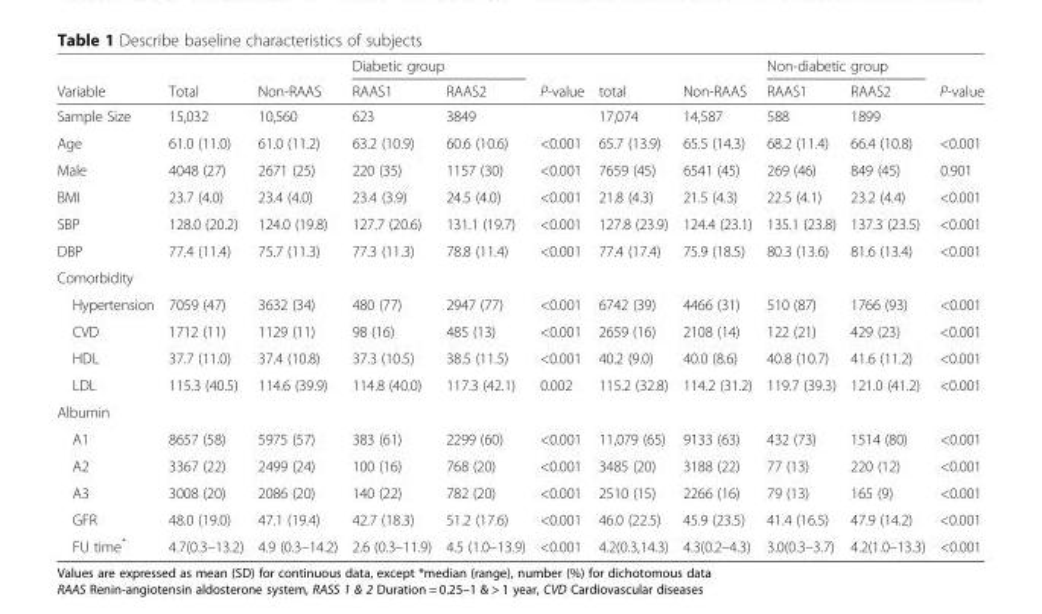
<table><thead><tr><td rowspan="2">Variable</td><td rowspan="2">Total</td><td rowspan="2">Non-RAAS</td><td colspan="2">Diabetic group</td><td rowspan="2">P-value</td><td rowspan="2">total</td><td rowspan="2">Non-RAAS</td><td colspan="2">Non-diabetic group</td><td rowspan="2">P-value</td></tr><tr><td>RAAS1</td><td>RAAS2</td><td>RAAS1</td><td>RAAS2</td></tr></thead><tbody><tr><td>Sample Size</td><td>15,032</td><td>10,560</td><td>623</td><td>3849</td><td></td><td>17,074</td><td>14,587</td><td>588</td><td>1899</td><td></td></tr><tr><td>Age</td><td>61.0 (11.0)</td><td>61.0 (11.2)</td><td>63.2 (10.9)</td><td>60.6 (10.6)</td><td>&lt;0.001</td><td>65.7 (13.9)</td><td>65.5 (14.3)</td><td>68.2 (11.4)</td><td>66.4 (10.8)</td><td>&lt;0.001</td></tr><tr><td>Male</td><td>4048 (27)</td><td>2671 (25)</td><td>220 (35)</td><td>1157 (30)</td><td>&lt;0.001</td><td>7659 (45)</td><td>6541 (45)</td><td>269 (46)</td><td>849 (45)</td><td>0.901</td></tr><tr><td>BMI</td><td>23.7 (4.0)</td><td>23.4 (4.0)</td><td>23.4 (3.9)</td><td>24.5 (4.0)</td><td>&lt;0.001</td><td>21.8 (4.3)</td><td>21.5 (4.3)</td><td>22.5 (4.1)</td><td>23.2 (4.4)</td><td>&lt;0.001</td></tr><tr><td>SBP</td><td>128.0 (20.2)</td><td>124.0 (19.8)</td><td>127.7 (20.6)</td><td>131.1 (19.7)</td><td>&lt;0.001</td><td>127.8 (23.9)</td><td>124.4 (23.1)</td><td>135.1 (23.8)</td><td>137.3 (23.5)</td><td>&lt;0.001</td></tr><tr><td>DBP</td><td>77.4 (11.4)</td><td>75.7 (11.3)</td><td>77.3 (11.3)</td><td>78.8 (11.4)</td><td>&lt;0.001</td><td>77.4 (17.4)</td><td>75.9 (18.5)</td><td>80.3 (13.6)</td><td>81.6 (13.4)</td><td>&lt;0.001</td></tr><tr><td colspan="11">Comorbidity</td></tr><tr><td>Hypertension</td><td>7059 (47)</td><td>3632 (34)</td><td>480 (77)</td><td>2947 (77)</td><td>&lt;0.001</td><td>6742 (39)</td><td>4466 (31)</td><td>510 (87)</td><td>1766 (93)</td><td>&lt;0.001</td></tr><tr><td>CVD</td><td>1712 (11)</td><td>1129 (11)</td><td>98 (16)</td><td>485 (13)</td><td>&lt;0.001</td><td>2659 (16)</td><td>2108 (14)</td><td>122 (21)</td><td>429 (23)</td><td>&lt;0.001</td></tr><tr><td>HDL</td><td>37.7 (11.0)</td><td>37.4 (10.8)</td><td>37.3 (10.5)</td><td>38.5 (11.5)</td><td>&lt;0.001</td><td>40.2 (9.0)</td><td>40.0 (8.6)</td><td>40.8 (10.7)</td><td>41.6 (11.2)</td><td>&lt;0.001</td></tr><tr><td>LDL</td><td>115.3 (40.5)</td><td>114.6 (39.9)</td><td>114.8 (40.0)</td><td>117.3 (42.1)</td><td>0.002</td><td>115.2 (32.8)</td><td>114.2 (31.2)</td><td>119.7 (39.3)</td><td>121.0 (41.2)</td><td>&lt;0.001</td></tr><tr><td colspan="11">Albumin</td></tr><tr><td>A1</td><td>8657 (58)</td><td>5975 (57)</td><td>383 (61)</td><td>2299 (60)</td><td>&lt;0.001</td><td>11,079 (65)</td><td>9133 (63)</td><td>432 (73)</td><td>1514 (80)</td><td>&lt;0.001</td></tr><tr><td>A2</td><td>3367 (22)</td><td>2499 (24)</td><td>100 (16)</td><td>768 (20)</td><td>&lt;0.001</td><td>3485 (20)</td><td>3188 (22)</td><td>77 (13)</td><td>220 (12)</td><td>&lt;0.001</td></tr><tr><td>A3</td><td>3008 (20)</td><td>2086 (20)</td><td>140 (22)</td><td>782 (20)</td><td>&lt;0.001</td><td>2510 (15)</td><td>2266 (16)</td><td>79 (13)</td><td>165 (9)</td><td>&lt;0.001</td></tr><tr><td>GFR</td><td>48.0 (19.0)</td><td>47.1 (19.4)</td><td>42.7 (18.3)</td><td>51.2 (17.6)</td><td>&lt;0.001</td><td>46.0 (22.5)</td><td>45.9 (23.5)</td><td>41.4 (16.5)</td><td>47.9 (14.2)</td><td>&lt;0.001</td></tr><tr><td>FU time*</td><td>4.7(0.3–13.2)</td><td>4.9 (0.3–14.2)</td><td>2.6 (0.3–11.9)</td><td>4.5 (1.0–13.9)</td><td>&lt;0.001</td><td>4.2(0.3,14.3)</td><td>4.3(0.2–4.3)</td><td>3.0(0.3–3.7)</td><td>4.2(1.0–13.3)</td><td>&lt;0.001</td></tr></tbody></table>